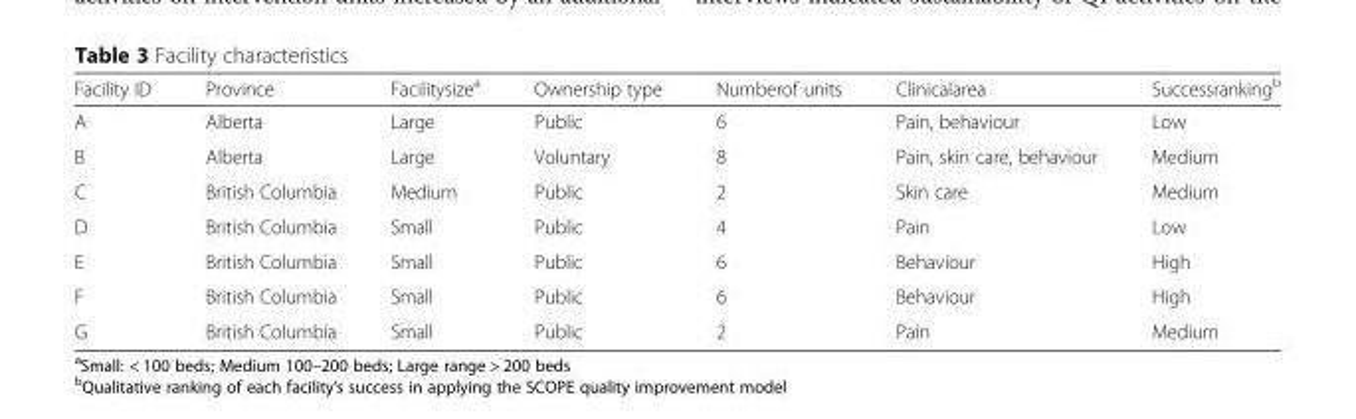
<table><thead><tr><td>Facility ID</td><td>Province</td><td>Facilitysize<sup>a</sup></td><td>Ownership type</td><td>Numberof units</td><td>Clinicalarea</td><td>Successranking<sup>b</sup></td></tr></thead><tbody><tr><td>A</td><td>Alberta</td><td>Large</td><td>Public</td><td>6</td><td>Pain, behaviour</td><td>Low</td></tr><tr><td>B</td><td>Alberta</td><td>Large</td><td>Voluntary</td><td>8</td><td>Pain, skin care, behaviour</td><td>Medium</td></tr><tr><td>C</td><td>British Columbia</td><td>Medium</td><td>Public</td><td>2</td><td>Skin care</td><td>Medium</td></tr><tr><td>D</td><td>British Columbia</td><td>Small</td><td>Public</td><td>4</td><td>Pain</td><td>Low</td></tr><tr><td>E</td><td>British Columbia</td><td>Small</td><td>Public</td><td>6</td><td>Behaviour</td><td>High</td></tr><tr><td>F</td><td>British Columbia</td><td>Small</td><td>Public</td><td>6</td><td>Behaviour</td><td>High</td></tr><tr><td>G</td><td>British Columbia</td><td>Small</td><td>Public</td><td>2</td><td>Pain</td><td>Medium</td></tr></tbody></table>